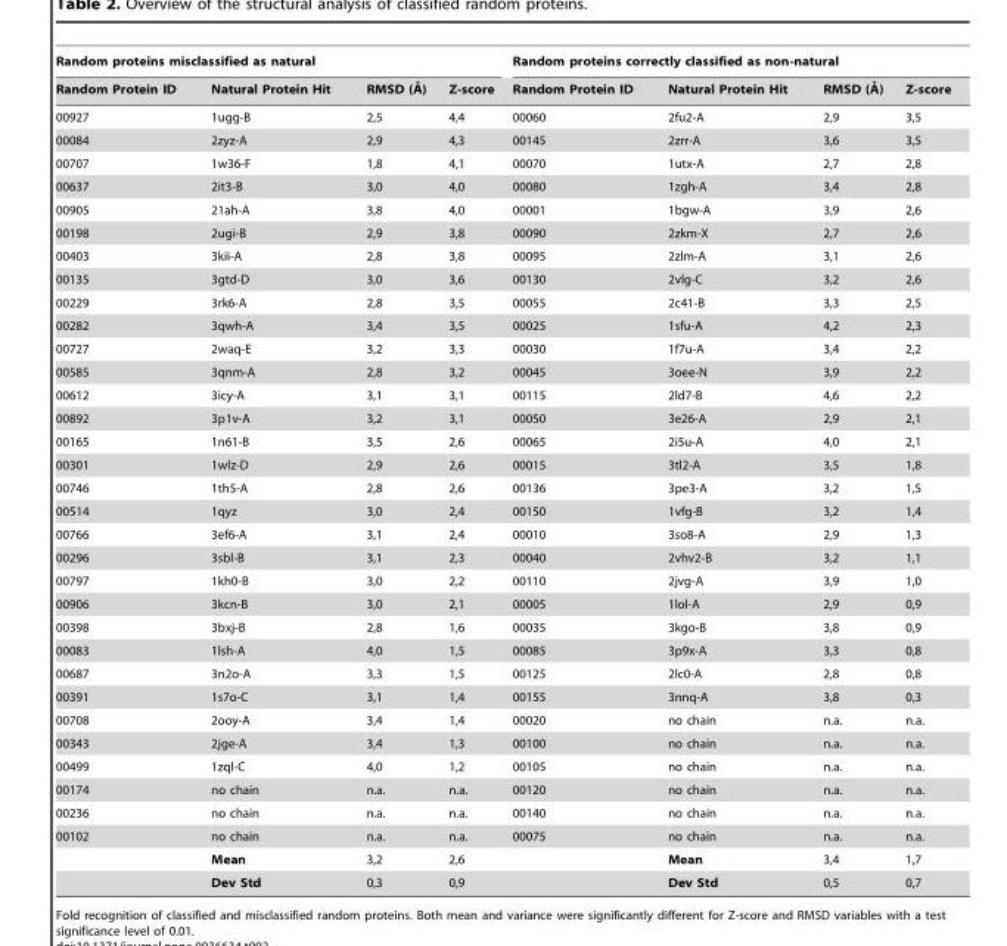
<table><thead><tr><td colspan="4">Random proteins misclassified as natural</td><td colspan="4">Random proteins correctly classified as non-natural</td></tr><tr><td>Random Protein ID</td><td>Natural Protein Hit</td><td>RMSD (A˚ )</td><td>Z-score</td><td>Random Protein ID</td><td>Natural Protein Hit</td><td>RMSD (A˚ )</td><td>Z-score</td></tr></thead><tbody><tr><td>00927</td><td>1ugg-B</td><td>2,5</td><td>4,4</td><td>00060</td><td>2fu2-A</td><td>2,9</td><td>3,5</td></tr><tr><td>00084</td><td>2zyz-A</td><td>2,9</td><td>4,3</td><td>00145</td><td>2zrr-A</td><td>3,6</td><td>3,5</td></tr><tr><td>00707</td><td>1w36-F</td><td>1,8</td><td>4,1</td><td>00070</td><td>1utx-A</td><td>2,7</td><td>2,8</td></tr><tr><td>00637</td><td>2it3-B</td><td>3,0</td><td>4,0</td><td>00080</td><td>1zgh-A</td><td>3,4</td><td>2,8</td></tr><tr><td>00905</td><td>21ah-A</td><td>3,8</td><td>4,0</td><td>00001</td><td>1bgw-A</td><td>3,9</td><td>2,6</td></tr><tr><td>00198</td><td>2ugi-B</td><td>2,9</td><td>3,8</td><td>00090</td><td>2zkm-X</td><td>2,7</td><td>2,6</td></tr><tr><td>00403</td><td>3kii-A</td><td>2,8</td><td>3,8</td><td>00095</td><td>2zlm-A</td><td>3,1</td><td>2,6</td></tr><tr><td>00135</td><td>3gtd-D</td><td>3,0</td><td>3,6</td><td>00130</td><td>2vlg-C</td><td>3,2</td><td>2,6</td></tr><tr><td>00229</td><td>3rk6-A</td><td>2,8</td><td>3,5</td><td>00055</td><td>2c41-B</td><td>3,3</td><td>2,5</td></tr><tr><td>00282</td><td>3qwh-A</td><td>3,4</td><td>3,5</td><td>00025</td><td>1sfu-A</td><td>4,2</td><td>2,3</td></tr><tr><td>00727</td><td>2waq-E</td><td>3,2</td><td>3,3</td><td>00030</td><td>1f7u-A</td><td>3,4</td><td>2,2</td></tr><tr><td>00585</td><td>3qnm-A</td><td>2,8</td><td>3,2</td><td>00045</td><td>3oee-N</td><td>3,9</td><td>2,2</td></tr><tr><td>00612</td><td>3icy-A</td><td>3,1</td><td>3,1</td><td>00115</td><td>2ld7-B</td><td>4,6</td><td>2,2</td></tr><tr><td>00892</td><td>3p1v-A</td><td>3,2</td><td>3,1</td><td>00050</td><td>3e26-A</td><td>2,9</td><td>2,1</td></tr><tr><td>00165</td><td>1n61-B</td><td>3,5</td><td>2,6</td><td>00065</td><td>2i5u-A</td><td>4,0</td><td>2,1</td></tr><tr><td>00301</td><td>1wlz-D</td><td>2,9</td><td>2,6</td><td>00015</td><td>3tl2-A</td><td>3,5</td><td>1,8</td></tr><tr><td>00746</td><td>1th5-A</td><td>2,8</td><td>2,6</td><td>00136</td><td>3pe3-A</td><td>3,2</td><td>1,5</td></tr><tr><td>00514</td><td>1qyz</td><td>3,0</td><td>2,4</td><td>00150</td><td>1vfg-B</td><td>3,2</td><td>1,4</td></tr><tr><td>00766</td><td>3ef6-A</td><td>3,1</td><td>2,4</td><td>00010</td><td>3so8-A</td><td>2,9</td><td>1,3</td></tr><tr><td>00296</td><td>3sbl-B</td><td>3,1</td><td>2,3</td><td>00040</td><td>2vhv2-B</td><td>3,2</td><td>1,1</td></tr><tr><td>00797</td><td>1kh0-B</td><td>3,0</td><td>2,2</td><td>00110</td><td>2jvg-A</td><td>3,9</td><td>1,0</td></tr><tr><td>00906</td><td>3kcn-B</td><td>3,0</td><td>2,1</td><td>00005</td><td>1lol-A</td><td>2,9</td><td>0,9</td></tr><tr><td>00398</td><td>3bxj-B</td><td>2,8</td><td>1,6</td><td>00035</td><td>3kgo-B</td><td>3,8</td><td>0,9</td></tr><tr><td>00083</td><td>1lsh-A</td><td>4,0</td><td>1,5</td><td>00085</td><td>3p9x-A</td><td>3,3</td><td>0,8</td></tr><tr><td>00687</td><td>3n2o-A</td><td>3,3</td><td>1,5</td><td>00125</td><td>2lc0-A</td><td>2,8</td><td>0,8</td></tr><tr><td>00391</td><td>1s7o-C</td><td>3,1</td><td>1,4</td><td>00155</td><td>3nnq-A</td><td>3,8</td><td>0,3</td></tr><tr><td>00708</td><td>2ooy-A</td><td>3,4</td><td>1,4</td><td>00020</td><td>no chain</td><td>n.a.</td><td>n.a.</td></tr><tr><td>00343</td><td>2jge-A</td><td>3,4</td><td>1,3</td><td>00100</td><td>no chain</td><td>n.a.</td><td>n.a.</td></tr><tr><td>00499</td><td>1zql-C</td><td>4,0</td><td>1,2</td><td>00105</td><td>no chain</td><td>n.a.</td><td>n.a.</td></tr><tr><td>00174</td><td>no chain</td><td>n.a.</td><td>n.a.</td><td>00120</td><td>no chain</td><td>n.a.</td><td>n.a.</td></tr><tr><td>00236</td><td>no chain</td><td>n.a.</td><td>n.a.</td><td>00140</td><td>no chain</td><td>n.a.</td><td>n.a.</td></tr><tr><td rowspan="3">00102</td><td>no chain</td><td>n.a.</td><td>n.a.</td><td>00075</td><td>no chain</td><td>n.a.</td><td>n.a.</td></tr><tr><td>Mean</td><td>3,2</td><td>2,6</td><td></td><td>Mean</td><td>3,4</td><td>1,7</td></tr><tr><td>Dev Std</td><td>0,3</td><td>0,9</td><td></td><td>Dev Std</td><td>0,5</td><td>0,7</td></tr></tbody></table>